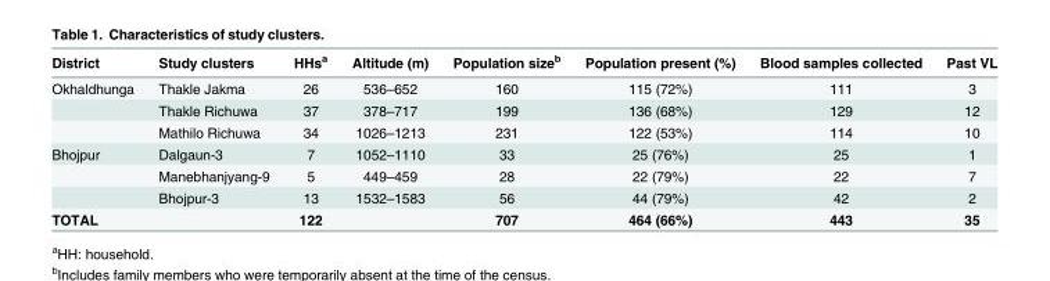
<table><thead><tr><td>District</td><td>Study clusters</td><td>HHs<sup>a</sup></td><td>Altitude (m)</td><td>Population size<sup>b</sup></td><td>Population present (%)</td><td>Blood samples collected</td><td>Past VL</td></tr></thead><tbody><tr><td rowspan="3">Okhaldhunga</td><td>Thakle Jakma</td><td>26</td><td>536–652</td><td>160</td><td>115 (72%)</td><td>111</td><td>3</td></tr><tr><td>Thakle Richuwa</td><td>37</td><td>378–717</td><td>199</td><td>136 (68%)</td><td>129</td><td>12</td></tr><tr><td>Mathilo Richuwa</td><td>34</td><td>1026–1213</td><td>231</td><td>122 (53%)</td><td>114</td><td>10</td></tr><tr><td rowspan="3">Bhojpur</td><td>Dalgaun-3</td><td>7</td><td>1052–1110</td><td>33</td><td>25 (76%)</td><td>25</td><td>1</td></tr><tr><td>Manebhanjyang-9</td><td>5</td><td>449–459</td><td>28</td><td>22 (79%)</td><td>22</td><td>7</td></tr><tr><td>Bhojpur-3</td><td>13</td><td>1532–1583</td><td>56</td><td>44 (79%)</td><td>42</td><td>2</td></tr><tr><td>TOTAL</td><td></td><td>122</td><td></td><td>707</td><td>464 (66%)</td><td>443</td><td>35</td></tr></tbody></table>